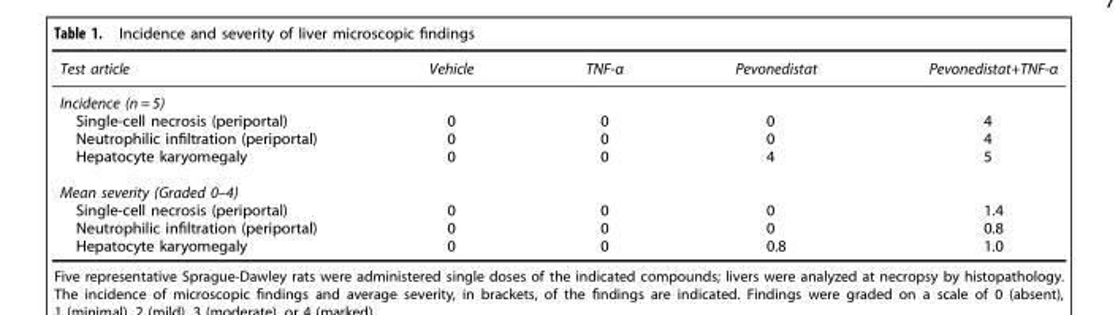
<table><thead><tr><td>Test article</td><td>Vehicle</td><td>TNF-α</td><td>Pevonedistat</td><td>Pevonedistat+TNF-α</td></tr></thead><tbody><tr><td colspan="5">Incidence (n = 5)</td></tr><tr><td>Single-cell necrosis (periportal)</td><td>0</td><td>0</td><td>0</td><td>4</td></tr><tr><td>Neutrophilic infiltration (periportal)</td><td>0</td><td>0</td><td>0</td><td>4</td></tr><tr><td>Hepatocyte karyomegaly</td><td>0</td><td>0</td><td>4</td><td>5</td></tr><tr><td colspan="5">Mean severity (Graded 0–4)</td></tr><tr><td>Single-cell necrosis (periportal)</td><td>0</td><td>0</td><td>0</td><td>1.4</td></tr><tr><td>Neutrophilic infiltration (periportal)</td><td>0</td><td>0</td><td>0</td><td>0.8</td></tr><tr><td>Hepatocyte karyomegaly</td><td>0</td><td>0</td><td>0.8</td><td>1.0</td></tr></tbody></table>